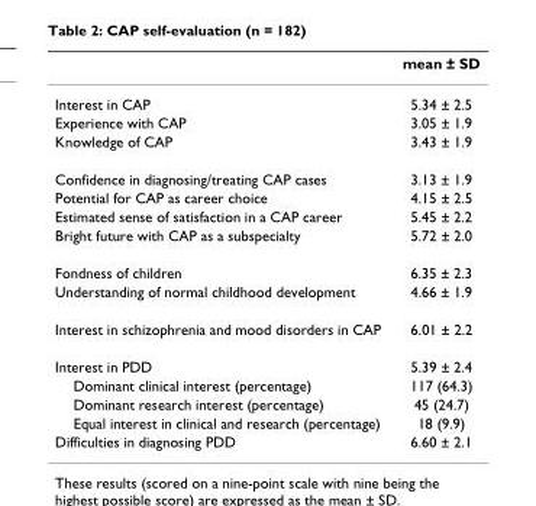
<table><thead><tr><td></td><td>mean ± SD</td></tr></thead><tbody><tr><td>Interest in CAP</td><td>5.34 ± 2.5</td></tr><tr><td>Experience with CAP</td><td>3.05 ± 1.9</td></tr><tr><td>Knowledge of CAP</td><td>3.43 ± 1.9</td></tr><tr><td>Confidence in diagnosing/treating CAP cases</td><td>3.13 ± 1.9</td></tr><tr><td>Potential for CAP as career choice</td><td>4.15 ± 2.5</td></tr><tr><td>Estimated sense of satisfaction in a CAP career</td><td>5.45 ± 2.2</td></tr><tr><td>Bright future with CAP as a subspecialty</td><td>5.72 ± 2.0</td></tr><tr><td>Fondness of children</td><td>6.35 ± 2.3</td></tr><tr><td>Understanding of normal childhood development</td><td>4.66 ± 1.9</td></tr><tr><td>Interest in schizophrenia and mood disorders in CAP</td><td>6.01 ± 2.2</td></tr><tr><td>Interest in PDD</td><td>5.39 ± 2.4</td></tr><tr><td>Dominant clinical interest (percentage)</td><td>117 (64.3)</td></tr><tr><td>Dominant research interest (percentage)</td><td>45 (24.7)</td></tr><tr><td>Equal interest in clinical and research (percentage)</td><td>18 (9.9)</td></tr><tr><td>Difficulties in diagnosing PDD</td><td>6.60 ± 2.1</td></tr></tbody></table>